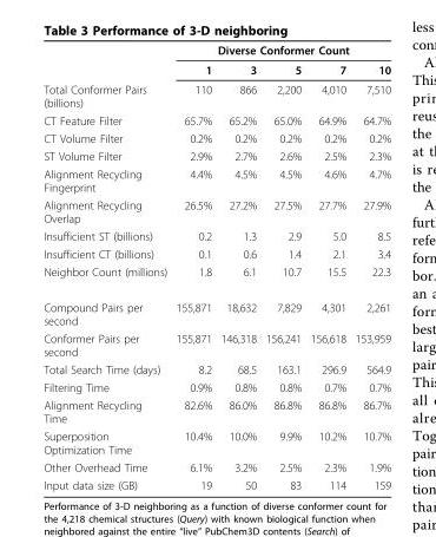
<table><thead><tr><td rowspan="2"></td><td colspan="5">Diverse Conformer Count</td></tr><tr><td>1</td><td>3</td><td>5</td><td>7</td><td>10</td></tr></thead><tbody><tr><td>Total Conformer Pairs (billions)</td><td>110</td><td>866</td><td>2,200</td><td>4,010</td><td>7,510</td></tr><tr><td>CT Feature Filter</td><td>65.7%</td><td>65.2%</td><td>65.0%</td><td>64.9%</td><td>64.7%</td></tr><tr><td>CT Volume Filter</td><td>0.2%</td><td>0.2%</td><td>0.2%</td><td>0.2%</td><td>0.2%</td></tr><tr><td>ST Volume Filter</td><td>2.9%</td><td>2.7%</td><td>2.6%</td><td>2.5%</td><td>2.3%</td></tr><tr><td>Alignment Recycling Fingerprint</td><td>4.4%</td><td>4.5%</td><td>4.5%</td><td>4.6%</td><td>4.7%</td></tr><tr><td>Alignment Recycling Overlap</td><td>26.5%</td><td>27.2%</td><td>27.5%</td><td>27.7%</td><td>27.9%</td></tr><tr><td>Insufficient ST (billions)</td><td>0.2</td><td>1.3</td><td>2.9</td><td>5.0</td><td>8.5</td></tr><tr><td>Insufficient CT (billions)</td><td>0.1</td><td>0.6</td><td>1.4</td><td>2.1</td><td>3.4</td></tr><tr><td>Neighbor Count (millions)</td><td>1.8</td><td>6.1</td><td>10.7</td><td>15.5</td><td>22.3</td></tr><tr><td>Compound Pairs per second</td><td>155,871</td><td>18,632</td><td>7,829</td><td>4,301</td><td>2,261</td></tr><tr><td>Conformer Pairs per second</td><td>155,871</td><td>146,318</td><td>156,241</td><td>156,618</td><td>153,959</td></tr><tr><td>Total Search Time (days)</td><td>8.2</td><td>68.5</td><td>163.1</td><td>296.9</td><td>564.9</td></tr><tr><td>Filtering Time</td><td>0.9%</td><td>0.8%</td><td>0.8%</td><td>0.7%</td><td>0.7%</td></tr><tr><td>Alignment Recycling Time</td><td>82.6%</td><td>86.0%</td><td>86.8%</td><td>86.8%</td><td>86.7%</td></tr><tr><td>Superposition Optimization Time</td><td>10.4%</td><td>10.0%</td><td>9.9%</td><td>10.2%</td><td>10.7%</td></tr><tr><td>Other Overhead Time</td><td>6.1%</td><td>3.2%</td><td>2.5%</td><td>2.3%</td><td>1.9%</td></tr><tr><td>Input data size (GB)</td><td>19</td><td>50</td><td>83</td><td>114</td><td>159</td></tr></tbody></table>